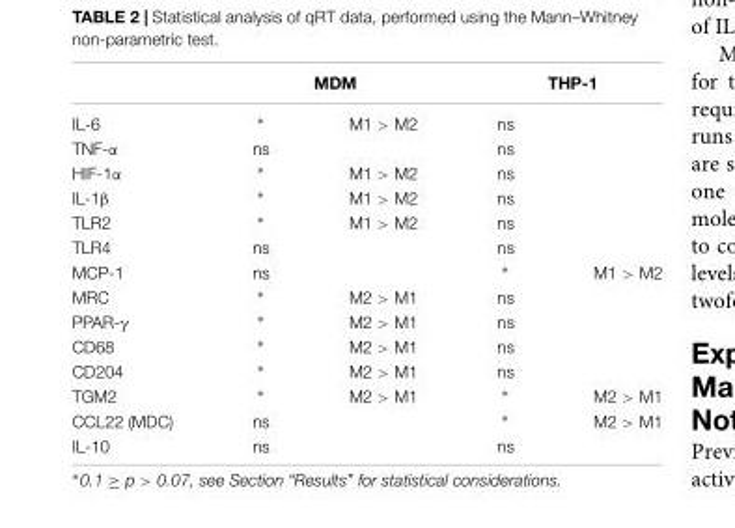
<table><thead><tr><td rowspan="2">IL-6</td><td colspan="2">MDM</td><td colspan="2">THP-1</td></tr><tr><td>∗</td><td>M1 &gt; M2</td><td>ns</td><td></td></tr></thead><tbody><tr><td>TNF-α</td><td>ns</td><td></td><td>ns</td><td></td></tr><tr><td>HIF-1α</td><td>∗</td><td>M1 &gt; M2</td><td>ns</td><td></td></tr><tr><td>IL-1β</td><td>∗</td><td>M1 &gt; M2</td><td>ns</td><td></td></tr><tr><td>TLR2</td><td>∗</td><td>M1 &gt; M2</td><td>ns</td><td></td></tr><tr><td>TLR4</td><td>ns</td><td></td><td>ns</td><td></td></tr><tr><td>MCP-1</td><td>ns</td><td></td><td>∗</td><td>M1 &gt; M2</td></tr><tr><td>MRC</td><td>∗</td><td>M2 &gt; M1</td><td>ns</td><td></td></tr><tr><td>PPAR-γ</td><td>∗</td><td>M2 &gt; M1</td><td>ns</td><td></td></tr><tr><td>CD68</td><td>∗</td><td>M2 &gt; M1</td><td>ns</td><td></td></tr><tr><td>CD204</td><td>∗</td><td>M2 &gt; M1</td><td>ns</td><td></td></tr><tr><td>TGM2</td><td>∗</td><td>M2 &gt; M1</td><td>∗</td><td>M2 &gt; M1</td></tr><tr><td>CCL22 (MDC)</td><td>ns</td><td></td><td>∗</td><td>M2 &gt; M1</td></tr><tr><td>IL-10</td><td>ns</td><td></td><td>ns</td><td></td></tr></tbody></table>